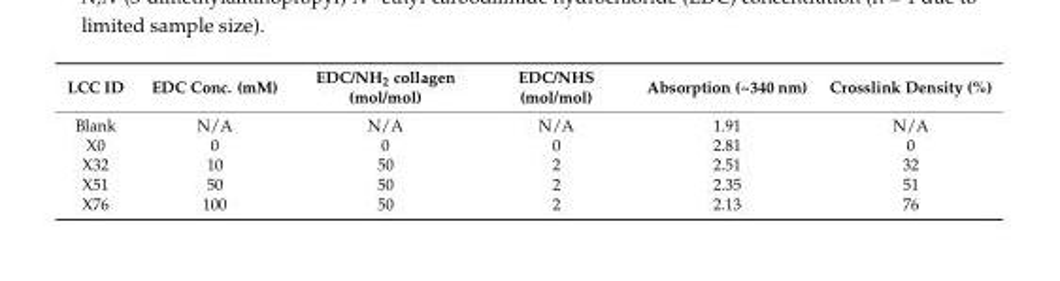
<table><thead><tr><td>LCC ID</td><td>EDC Conc. (mM)</td><td>EDC/NH<sub>2</sub> collagen (mol/mol)</td><td>EDC/NHS (mol/mol)</td><td>Absorption (~340 nm)</td><td>Crosslink Density (%)</td></tr></thead><tbody><tr><td>Blank</td><td>N/A</td><td>N/A</td><td>N/A</td><td>1.91</td><td>N/A</td></tr><tr><td>X0</td><td>0</td><td>0</td><td>0</td><td>2.81</td><td>0</td></tr><tr><td>X32</td><td>10</td><td>50</td><td>2</td><td>2.51</td><td>32</td></tr><tr><td>X51</td><td>50</td><td>50</td><td>2</td><td>2.35</td><td>51</td></tr><tr><td>X76</td><td>100</td><td>50</td><td>2</td><td>2.13</td><td>76</td></tr></tbody></table>